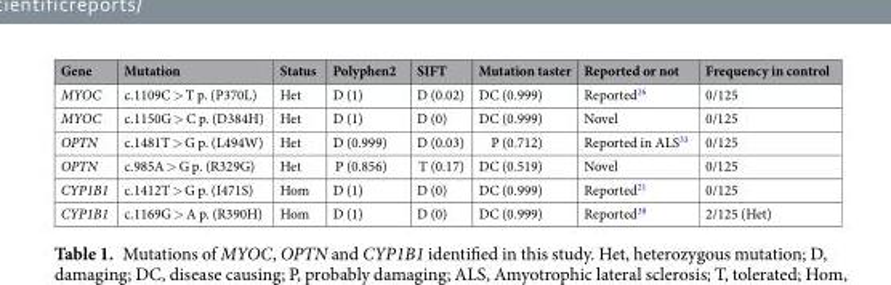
<table><thead><tr><td>Gene</td><td>Mutation</td><td>Status</td><td>Polyphen2</td><td>SIFT</td><td>Mutation taster</td><td>Reported or not</td><td>Frequency in control</td></tr></thead><tbody><tr><td>MYOC</td><td>c.1109C &gt; T p. (P370L)</td><td>Het</td><td>D (1)</td><td>D (0.02)</td><td>DC (0.999)</td><td>Reported<sup>26</sup></td><td>0/125</td></tr><tr><td>MYOC</td><td>c.1150G &gt; C p. (D384H)</td><td>Het</td><td>D (1)</td><td>D (0)</td><td>DC (0.999)</td><td>Novel</td><td>0/125</td></tr><tr><td>OPTN</td><td>c.1481T &gt; G p. (L494W)</td><td>Het</td><td>D (0.999)</td><td>D (0.03)</td><td>P (0.712)</td><td>Reported in ALS<sup>33</sup></td><td>0/125</td></tr><tr><td>OPTN</td><td>c.985A &gt; G p. (R329G)</td><td>Het</td><td>P (0.856)</td><td>T (0.17)</td><td>DC (0.519)</td><td>Novel</td><td>0/125</td></tr><tr><td>CYP1B1</td><td>c.1412T &gt; G p. (I471S)</td><td>Hom</td><td>D (1)</td><td>D (0)</td><td>DC (0.999)</td><td>Reported<sup>21</sup></td><td>0/125</td></tr><tr><td>CYP1B1</td><td>c.1169G &gt; A p. (R390H)</td><td>Hom</td><td>D (1)</td><td>D (0)</td><td>DC (0.999)</td><td>Reported<sup>38</sup></td><td>2/125 (Het)</td></tr></tbody></table>